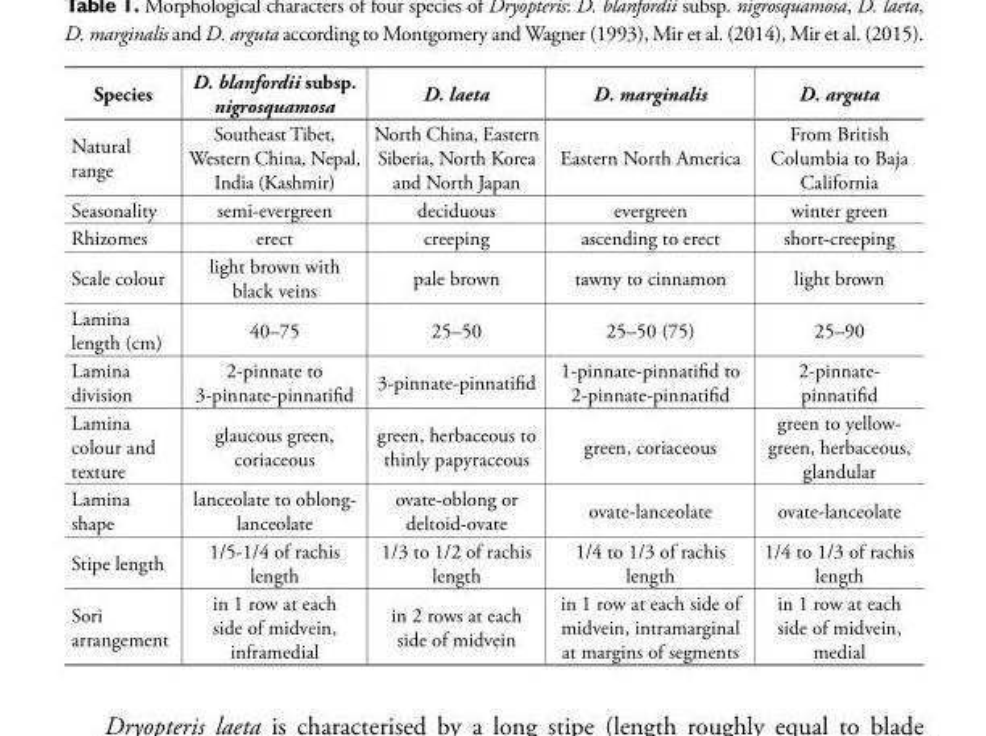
<table><thead><tr><td>Species</td><td>D. blanfordii subsp. nigrosquamosa</td><td>D. laeta</td><td>D. marginalis</td><td>D. arguta</td></tr></thead><tbody><tr><td>Natural range</td><td>Southeast Tibet, Western China, Nepal, India (Kashmir)</td><td>North China, Eastern Siberia, North Korea and North Japan</td><td>Eastern North America</td><td>From British Columbia to Baja California</td></tr><tr><td>Seasonality</td><td>semi-evergreen</td><td>deciduous</td><td>evergreen</td><td>winter green</td></tr><tr><td>Rhizomes</td><td>erect</td><td>creeping</td><td>ascending to erect</td><td>short-creeping</td></tr><tr><td>Scale colour</td><td>light brown with black veins</td><td>pale brown</td><td>tawny to cinnamon</td><td>light brown</td></tr><tr><td>Lamina length (cm)</td><td>40–75</td><td>25–50</td><td>25–50 (75)</td><td>25–90</td></tr><tr><td>Lamina division</td><td>2-pinnate to 3-pinnate-pinnatifid</td><td>3-pinnate-pinnatifid</td><td>1-pinnate-pinnatifid to 2-pinnate-pinnatifid</td><td>2-pinnate- pinnatifid</td></tr><tr><td>Lamina colour and texture</td><td>glaucous green, coriaceous</td><td>green, herbaceous to thinly papyraceous</td><td>green, coriaceous</td><td>green to yellow- green, herbaceous, glandular</td></tr><tr><td>Lamina shape</td><td>lanceolate to oblong- lanceolate</td><td>ovate-oblong or deltoid-ovate</td><td>ovate-lanceolate</td><td>ovate-lanceolate</td></tr><tr><td>Stipe length</td><td>1/5-1/4 of rachis length</td><td>1/3 to 1/2 of rachis length</td><td>1/4 to 1/3 of rachis length</td><td>1/4 to 1/3 of rachis length</td></tr><tr><td>Sori arrangement</td><td>in 1 row at each side of midvein, inframedial</td><td>in 2 rows at each side of midvein</td><td>in 1 row at each side of midvein, intramarginal at margins of segments</td><td>in 1 row at each side of midvein, medial</td></tr></tbody></table>